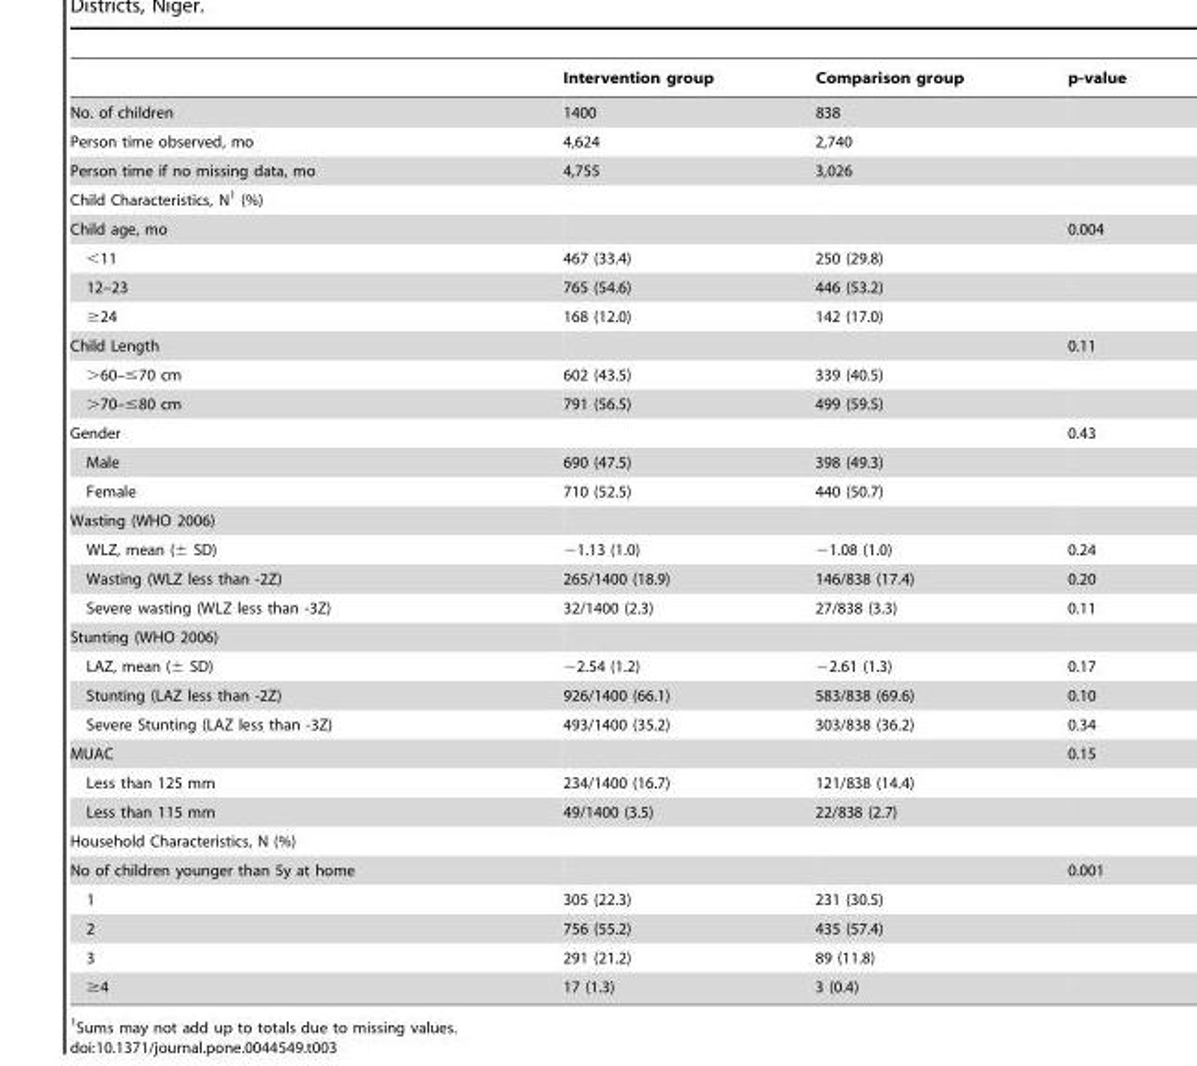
<table><thead><tr><td></td><td>Intervention group</td><td>Comparison group</td><td>p-value</td></tr></thead><tbody><tr><td>No. of children</td><td>1400</td><td>838</td><td></td></tr><tr><td>Person time observed, mo</td><td>4,624</td><td>2,740</td><td></td></tr><tr><td>Person time if no missing data, mo</td><td>4,755</td><td>3,026</td><td></td></tr><tr><td colspan="4">Child Characteristics, N<sup>1</sup> (%)</td></tr><tr><td>Child age, mo</td><td></td><td></td><td>0.004</td></tr><tr><td>&lt;11</td><td>467 (33.4)</td><td>250 (29.8)</td><td></td></tr><tr><td>12–23</td><td>765 (54.6)</td><td>446 (53.2)</td><td></td></tr><tr><td>≥24</td><td>168 (12.0)</td><td>142 (17.0)</td><td></td></tr><tr><td>Child Length</td><td></td><td></td><td>0.11</td></tr><tr><td>&gt;60–≤70 cm</td><td>602 (43.5)</td><td>339 (40.5)</td><td></td></tr><tr><td>&gt;70–≤80 cm</td><td>791 (56.5)</td><td>499 (59.5)</td><td></td></tr><tr><td>Gender</td><td></td><td></td><td>0.43</td></tr><tr><td>Male</td><td>690 (47.5)</td><td>398 (49.3)</td><td></td></tr><tr><td>Female</td><td>710 (52.5)</td><td>440 (50.7)</td><td></td></tr><tr><td colspan="4">Wasting (WHO 2006)</td></tr><tr><td>WLZ, mean (± SD)</td><td>−1.13 (1.0)</td><td>−1.08 (1.0)</td><td>0.24</td></tr><tr><td>Wasting (WLZ less than -2Z)</td><td>265/1400 (18.9)</td><td>146/838 (17.4)</td><td>0.20</td></tr><tr><td>Severe wasting (WLZ less than -3Z)</td><td>32/1400 (2.3)</td><td>27/838 (3.3)</td><td>0.11</td></tr><tr><td colspan="4">Stunting (WHO 2006)</td></tr><tr><td>LAZ, mean (± SD)</td><td>−2.54 (1.2)</td><td>−2.61 (1.3)</td><td>0.17</td></tr><tr><td>Stunting (LAZ less than -2Z)</td><td>926/1400 (66.1)</td><td>583/838 (69.6)</td><td>0.10</td></tr><tr><td>Severe Stunting (LAZ less than -3Z)</td><td>493/1400 (35.2)</td><td>303/838 (36.2)</td><td>0.34</td></tr><tr><td>MUAC</td><td></td><td></td><td>0.15</td></tr><tr><td>Less than 125 mm</td><td>234/1400 (16.7)</td><td>121/838 (14.4)</td><td></td></tr><tr><td>Less than 115 mm</td><td>49/1400 (3.5)</td><td>22/838 (2.7)</td><td></td></tr><tr><td colspan="4">Household Characteristics, N (%)</td></tr><tr><td>No of children younger than 5y at home</td><td></td><td></td><td>0.001</td></tr><tr><td>1</td><td>305 (22.3)</td><td>231 (30.5)</td><td></td></tr><tr><td>2</td><td>756 (55.2)</td><td>435 (57.4)</td><td></td></tr><tr><td>3</td><td>291 (21.2)</td><td>89 (11.8)</td><td></td></tr><tr><td>≥4</td><td>17 (1.3)</td><td>3 (0.4)</td><td></td></tr></tbody></table>